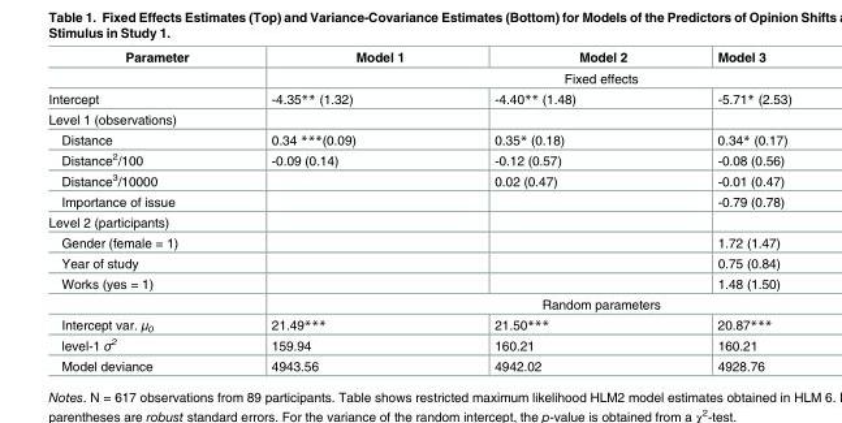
<table><thead><tr><td>Parameter</td><td>Model 1</td><td>Model 2</td><td>Model 3</td></tr></thead><tbody><tr><td></td><td colspan="3">Fixed effects</td></tr><tr><td>Intercept</td><td>-4.35** (1.32)</td><td>-4.40** (1.48)</td><td>-5.71* (2.53)</td></tr><tr><td colspan="4">Level 1 (observations)</td></tr><tr><td>Distance</td><td>0.34 ***(0.09)</td><td>0.35* (0.18)</td><td>0.34* (0.17)</td></tr><tr><td>Distance<sup>2</sup>/100</td><td>-0.09 (0.14)</td><td>-0.12 (0.57)</td><td>-0.08 (0.56)</td></tr><tr><td>Distance<sup>3</sup>/10000</td><td></td><td>0.02 (0.47)</td><td>-0.01 (0.47)</td></tr><tr><td>Importance of issue</td><td></td><td></td><td>-0.79 (0.78)</td></tr><tr><td colspan="4">Level 2 (participants)</td></tr><tr><td>Gender (female = 1)</td><td></td><td></td><td>1.72 (1.47)</td></tr><tr><td>Year of study</td><td></td><td></td><td>0.75 (0.84)</td></tr><tr><td rowspan="2">Works (yes = 1)</td><td></td><td></td><td>1.48 (1.50)</td></tr><tr><td colspan="3">Random parameters</td></tr><tr><td>Intercept var. μ<sub>0</sub></td><td>21.49***</td><td>21.50***</td><td>20.87***</td></tr><tr><td>level-1 σ<sup>2</sup></td><td>159.94</td><td>160.21</td><td>160.21</td></tr><tr><td>Model deviance</td><td>4943.56</td><td>4942.02</td><td>4928.76</td></tr></tbody></table>